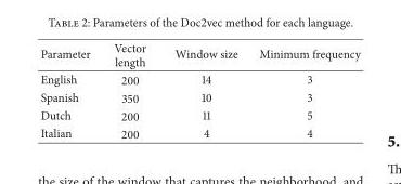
<table><thead><tr><td>Parameter</td><td>Vector length</td><td>Window size</td><td>Minimum frequency</td></tr></thead><tbody><tr><td>English</td><td>200</td><td>14</td><td>3</td></tr><tr><td>Spanish</td><td>350</td><td>10</td><td>3</td></tr><tr><td>Dutch</td><td>200</td><td>11</td><td>5</td></tr><tr><td>Italian</td><td>200</td><td>4</td><td>4</td></tr></tbody></table>